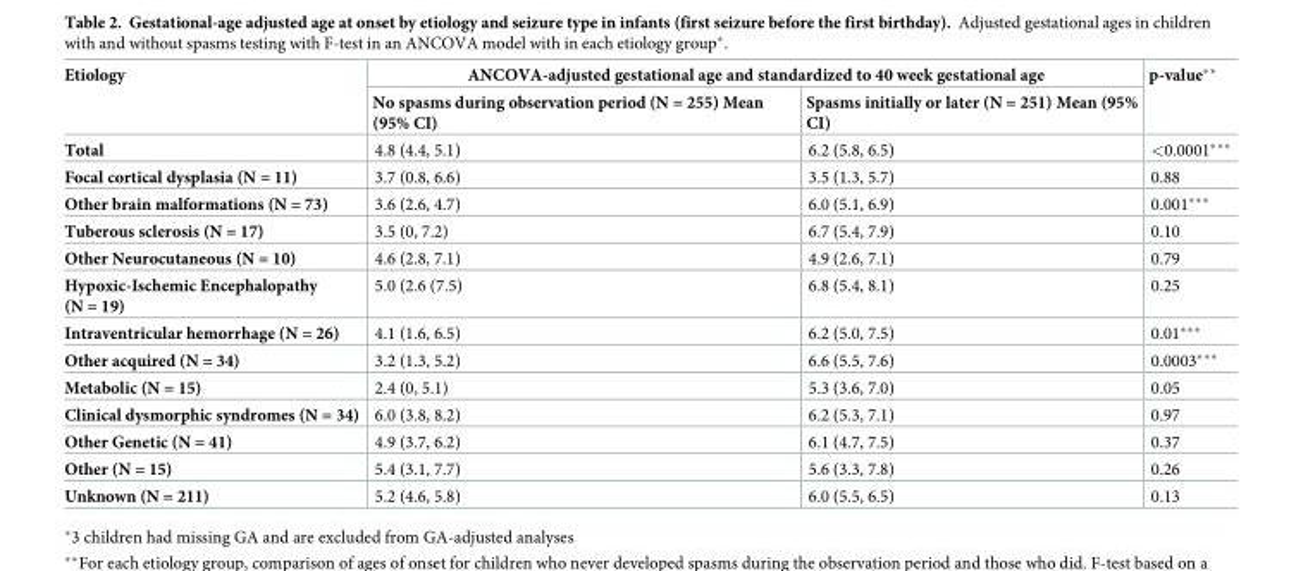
<table><thead><tr><td rowspan="2">Etiology</td><td colspan="2">ANCOVA-adjusted gestational age and standardized to 40 week gestational age</td><td rowspan="2">p-value**</td></tr><tr><td>No spasms during observation period (N = 255) Mean (95% CI)</td><td>Spasms initially or later (N = 251) Mean (95% CI)</td></tr></thead><tbody><tr><td>Total</td><td>4.8 (4.4, 5.1)</td><td>6.2 (5.8, 6.5)</td><td>&lt;0.0001***</td></tr><tr><td>Focal cortical dysplasia (N = 11)</td><td>3.7 (0.8, 6.6)</td><td>3.5 (1.3, 5.7)</td><td>0.88</td></tr><tr><td>Other brain malformations (N = 73)</td><td>3.6 (2.6, 4.7)</td><td>6.0 (5.1, 6.9)</td><td>0.001***</td></tr><tr><td>Tuberous sclerosis (N = 17)</td><td>3.5 (0, 7.2)</td><td>6.7 (5.4, 7.9)</td><td>0.10</td></tr><tr><td>Other Neurocutaneous (N = 10)</td><td>4.6 (2.8, 7.1)</td><td>4.9 (2.6, 7.1)</td><td>0.79</td></tr><tr><td>Hypoxic-Ischemic Encephalopathy (N = 19)</td><td>5.0 (2.6 (7.5)</td><td>6.8 (5.4, 8.1)</td><td>0.25</td></tr><tr><td>Intraventricular hemorrhage (N = 26)</td><td>4.1 (1.6, 6.5)</td><td>6.2 (5.0, 7.5)</td><td>0.01***</td></tr><tr><td>Other acquired (N = 34)</td><td>3.2 (1.3, 5.2)</td><td>6.6 (5.5, 7.6)</td><td>0.0003***</td></tr><tr><td>Metabolic (N = 15)</td><td>2.4 (0, 5.1)</td><td>5.3 (3.6, 7.0)</td><td>0.05</td></tr><tr><td>Clinical dysmorphic syndromes (N = 34)</td><td>6.0 (3.8, 8.2)</td><td>6.2 (5.3, 7.1)</td><td>0.97</td></tr><tr><td>Other Genetic (N = 41)</td><td>4.9 (3.7, 6.2)</td><td>6.1 (4.7, 7.5)</td><td>0.37</td></tr><tr><td>Other (N = 15)</td><td>5.4 (3.1, 7.7)</td><td>5.6 (3.3, 7.8)</td><td>0.26</td></tr><tr><td>Unknown (N = 211)</td><td>5.2 (4.6, 5.8)</td><td>6.0 (5.5, 6.5)</td><td>0.13</td></tr></tbody></table>